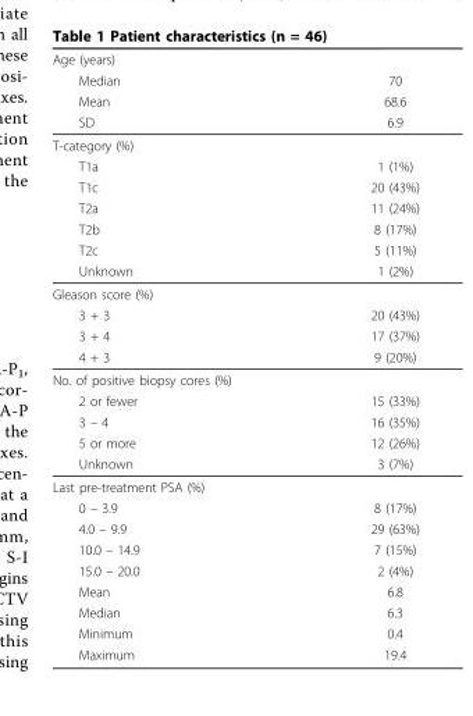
<table><thead><tr><td rowspan="4">Age (years) Median Mean SD</td><td rowspan="4">70 68.6 6.9</td></tr><tr></tr><tr></tr><tr></tr></thead><tbody><tr><td colspan="2">T-category (%)</td></tr><tr><td>T1a</td><td>1 (1%)</td></tr><tr><td>T1c</td><td>20 (43%)</td></tr><tr><td>T2a</td><td>11 (24%)</td></tr><tr><td>T2b</td><td>8 (17%)</td></tr><tr><td>T2c</td><td>5 (11%)</td></tr><tr><td>Unknown</td><td>1 (2%)</td></tr><tr><td colspan="2">Gleason score (%)</td></tr><tr><td>3 + 3</td><td>20 (43%)</td></tr><tr><td>3 + 4</td><td>17 (37%)</td></tr><tr><td>4 + 3</td><td>9 (20%)</td></tr><tr><td colspan="2">No. of positive biopsy cores (%)</td></tr><tr><td>2 or fewer</td><td>15 (33%)</td></tr><tr><td>3 – 4</td><td>16 (35%)</td></tr><tr><td>5 or more</td><td>12 (26%)</td></tr><tr><td>Unknown</td><td>3 (7%)</td></tr><tr><td colspan="2">Last pre-treatment PSA (%)</td></tr><tr><td>0 – 3.9</td><td>8 (17%)</td></tr><tr><td>4.0 – 9.9</td><td>29 (63%)</td></tr><tr><td>10.0 – 14.9</td><td>7 (15%)</td></tr><tr><td>15.0 – 20.0</td><td>2 (4%)</td></tr><tr><td>Mean</td><td>6.8</td></tr><tr><td>Median</td><td>6.3</td></tr><tr><td>Minimum</td><td>0.4</td></tr><tr><td>Maximum</td><td>19.4</td></tr></tbody></table>